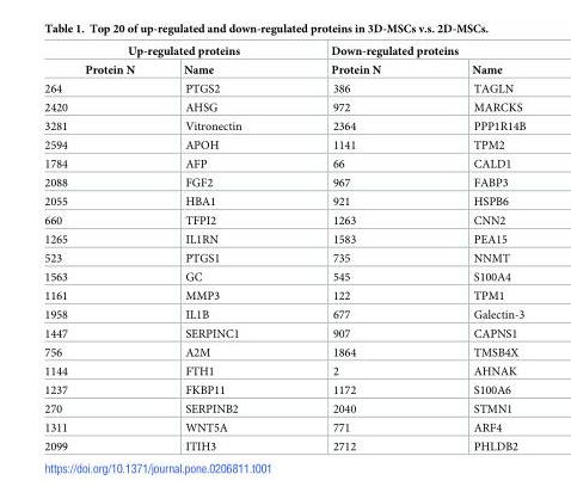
<table><thead><tr><td colspan="2">Up-regulated proteins</td><td colspan="2">Down-regulated proteins</td></tr><tr><td>Protein N</td><td>Name</td><td>Protein N</td><td>Name</td></tr></thead><tbody><tr><td>264</td><td>PTGS2</td><td>386</td><td>TAGLN</td></tr><tr><td>2420</td><td>AHSG</td><td>972</td><td>MARCKS</td></tr><tr><td>3281</td><td>Vitronectin</td><td>2364</td><td>PPP1R14B</td></tr><tr><td>2594</td><td>APOH</td><td>1141</td><td>TPM2</td></tr><tr><td>1784</td><td>AFP</td><td>66</td><td>CALD1</td></tr><tr><td>2088</td><td>FGF2</td><td>967</td><td>FABP3</td></tr><tr><td>2055</td><td>HBA1</td><td>921</td><td>HSPB6</td></tr><tr><td>660</td><td>TFPI2</td><td>1263</td><td>CNN2</td></tr><tr><td>1265</td><td>IL1RN</td><td>1583</td><td>PEA15</td></tr><tr><td>523</td><td>PTGS1</td><td>735</td><td>NNMT</td></tr><tr><td>1563</td><td>GC</td><td>545</td><td>S100A4</td></tr><tr><td>1161</td><td>MMP3</td><td>122</td><td>TPM1</td></tr><tr><td>1958</td><td>IL1B</td><td>677</td><td>Galectin-3</td></tr><tr><td>1447</td><td>SERPINC1</td><td>907</td><td>CAPNS1</td></tr><tr><td>756</td><td>A2M</td><td>1864</td><td>TMSB4X</td></tr><tr><td>1144</td><td>FTH1</td><td>2</td><td>AHNAK</td></tr><tr><td>1237</td><td>FKBP11</td><td>1172</td><td>S100A6</td></tr><tr><td>270</td><td>SERPINB2</td><td>2040</td><td>STMN1</td></tr><tr><td>1311</td><td>WNT5A</td><td>771</td><td>ARF4</td></tr><tr><td>2099</td><td>ITIH3</td><td>2712</td><td>PHLDB2</td></tr></tbody></table>